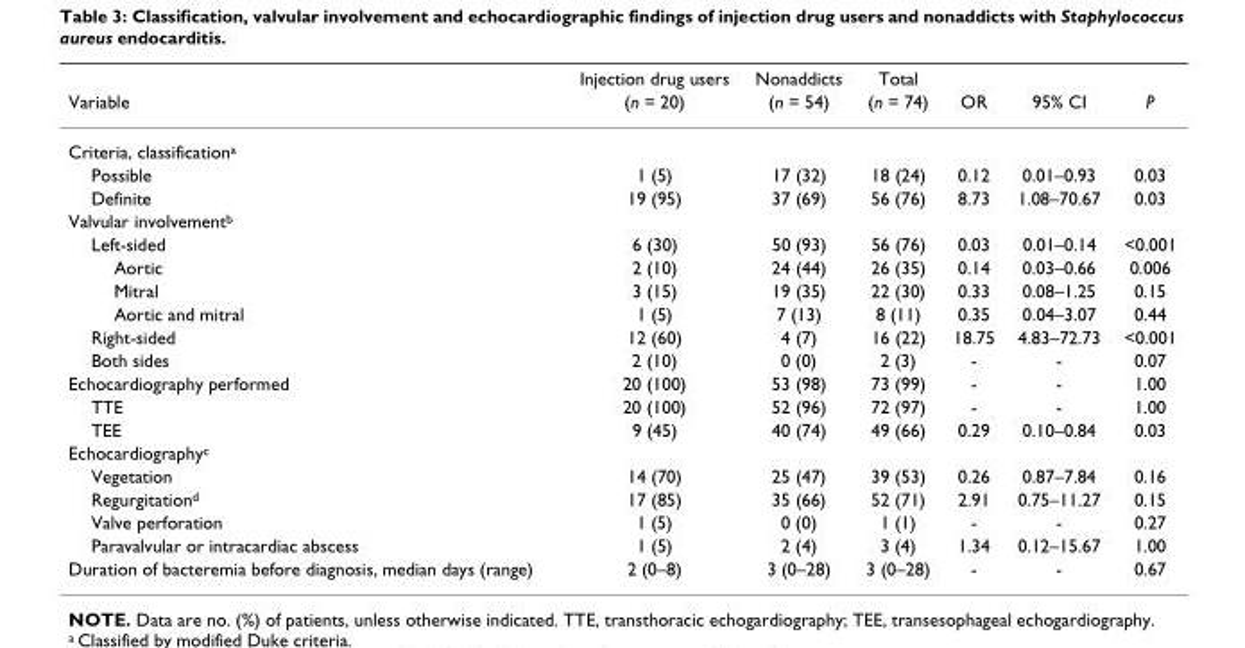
<table><thead><tr><td rowspan="2">Variable</td><td rowspan="2">Injection drug users (n = 20)</td><td rowspan="2">Nonaddicts (n = 54)</td><td rowspan="2">Total (n = 74)</td><td rowspan="2">OR</td><td rowspan="2">95% CI</td><td rowspan="2">P</td></tr><tr></tr></thead><tbody><tr><td colspan="7">Criteria, classification<sup>a</sup></td></tr><tr><td>Possible</td><td>1 (5)</td><td>17 (32)</td><td>18 (24)</td><td>0.12</td><td>0.01–0.93</td><td>0.03</td></tr><tr><td>Definite</td><td>19 (95)</td><td>37 (69)</td><td>56 (76)</td><td>8.73</td><td>1.08–70.67</td><td>0.03</td></tr><tr><td colspan="7">Valvular involvement<sup>b</sup></td></tr><tr><td>Left-sided</td><td>6 (30)</td><td>50 (93)</td><td>56 (76)</td><td>0.03</td><td>0.01–0.14</td><td>&lt;0.001</td></tr><tr><td>Aortic</td><td>2 (10)</td><td>24 (44)</td><td>26 (35)</td><td>0.14</td><td>0.03–0.66</td><td>0.006</td></tr><tr><td>Mitral</td><td>3 (15)</td><td>19 (35)</td><td>22 (30)</td><td>0.33</td><td>0.08–1.25</td><td>0.15</td></tr><tr><td>Aortic and mitral</td><td>1 (5)</td><td>7 (13)</td><td>8 (11)</td><td>0.35</td><td>0.04–3.07</td><td>0.44</td></tr><tr><td>Right-sided</td><td>12 (60)</td><td>4 (7)</td><td>16 (22)</td><td>18.75</td><td>4.83–72.73</td><td>&lt;0.001</td></tr><tr><td>Both sides</td><td>2 (10)</td><td>0 (0)</td><td>2 (3)</td><td>-</td><td>-</td><td>0.07</td></tr><tr><td>Echocardiography performed</td><td>20 (100)</td><td>53 (98)</td><td>73 (99)</td><td>-</td><td>-</td><td>1.00</td></tr><tr><td>TTE</td><td>20 (100)</td><td>52 (96)</td><td>72 (97)</td><td>-</td><td>-</td><td>1.00</td></tr><tr><td>TEE</td><td>9 (45)</td><td>40 (74)</td><td>49 (66)</td><td>0.29</td><td>0.10–0.84</td><td>0.03</td></tr><tr><td colspan="7">Echocardiography<sup>c</sup></td></tr><tr><td>Vegetation</td><td>14 (70)</td><td>25 (47)</td><td>39 (53)</td><td>0.26</td><td>0.87–7.84</td><td>0.16</td></tr><tr><td>Regurgitation<sup>d</sup></td><td>17 (85)</td><td>35 (66)</td><td>52 (71)</td><td>2.91</td><td>0.75–11.27</td><td>0.15</td></tr><tr><td>Valve perforation</td><td>1 (5)</td><td>0 (0)</td><td>1 (1)</td><td>-</td><td>-</td><td>0.27</td></tr><tr><td>Paravalvular or intracardiac abscess</td><td>1 (5)</td><td>2 (4)</td><td>3 (4)</td><td>1.34</td><td>0.12–15.67</td><td>1.00</td></tr><tr><td>Duration of bacteremia before diagnosis, median days (range)</td><td>2 (0–8)</td><td>3 (0–28)</td><td>3 (0–28)</td><td>-</td><td>-</td><td>0.67</td></tr></tbody></table>